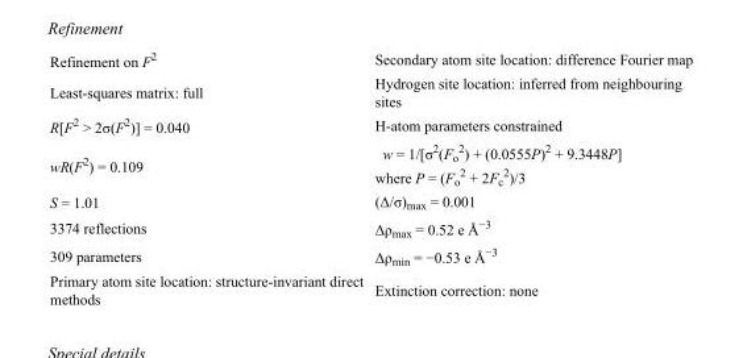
<table><tbody><tr><td>Refinement on F<sup>2</sup></td><td>Secondary atom site location: difference Fourier map</td></tr><tr><td>Least-squares matrix: full</td><td>Hydrogen site location: inferred from neighbouring sites</td></tr><tr><td>R[F<sup>2</sup> &gt; 2σ(F<sup>2</sup>)] = 0.040</td><td>H-atom parameters constrained</td></tr><tr><td>wR(F<sup>2</sup>) = 0.109</td><td>w = 1/[σ<sup>2</sup>(F<sub>o</sub> <sup>2</sup>) + (0.0555P)<sup>2</sup> + 9.3448P] where P = (F<sub>o</sub> <sup>2</sup> + 2F<sub>c</sub> <sup>2</sup>)/3</td></tr><tr><td>S = 1.01</td><td>(Δ/σ)<sub>max</sub> = 0.001</td></tr><tr><td>3374 reflections</td><td>Δρ<sub>max</sub> = 0.52 e Å<sup>−3</sup></td></tr><tr><td>309 parameters</td><td>Δρ<sub>min</sub> = −0.53 e Å<sup>−3</sup></td></tr><tr><td>Primary atom site location: structure-invariant direct methods</td><td>Extinction correction: none</td></tr></tbody></table>